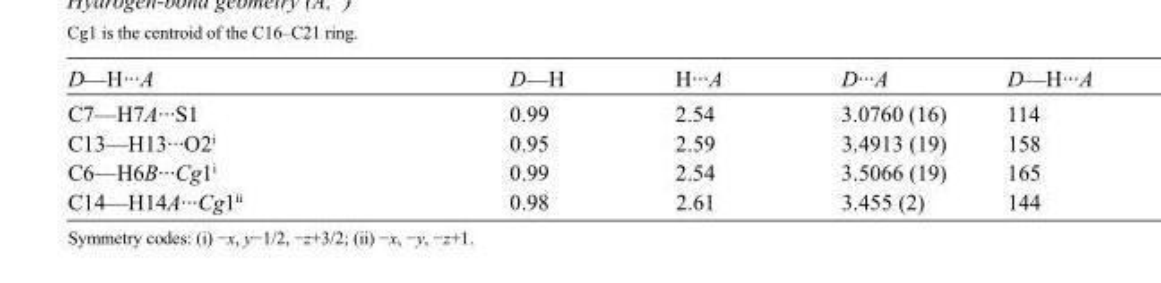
<table><tbody><tr><td>D—H···A</td><td>D—H</td><td>H···A</td><td>D···A</td><td>D—H···A</td></tr><tr><td>C7—H7A···S1</td><td>0.99</td><td>2.54</td><td>3.0760 (16)</td><td>114</td></tr><tr><td>C13—H13···O2<sup>i</sup></td><td>0.95</td><td>2.59</td><td>3.4913 (19)</td><td>158</td></tr><tr><td>C6—H6B···Cg1<sup>i</sup></td><td>0.99</td><td>2.54</td><td>3.5066 (19)</td><td>165</td></tr><tr><td>C14—H14A···Cg1<sup>ii</sup></td><td>0.98</td><td>2.61</td><td>3.455 (2)</td><td>144</td></tr></tbody></table>